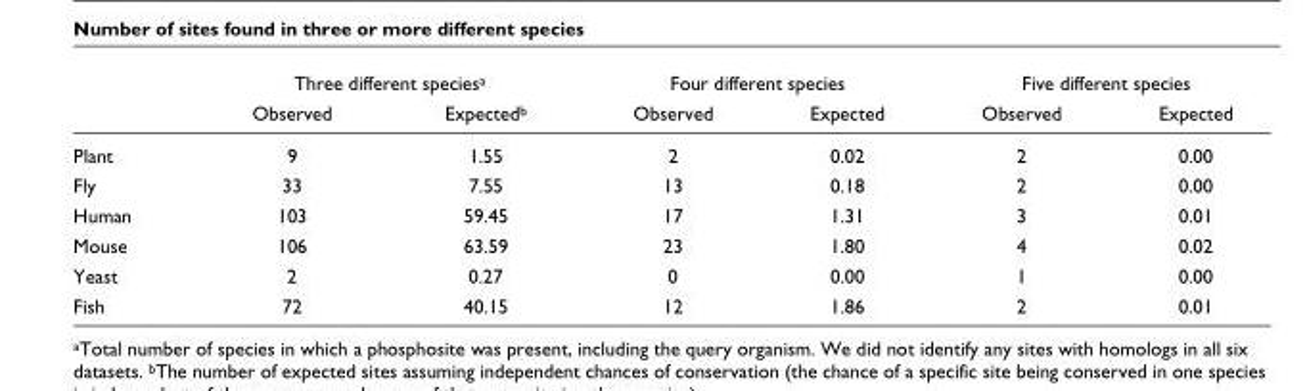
<table><thead><tr><td rowspan="2"></td><td colspan="2">Three different species<sup>a</sup></td><td colspan="2">Four different species</td><td colspan="2">Five different species</td></tr><tr><td>Observed</td><td>Expected<sup>b</sup></td><td>Observed</td><td>Expected</td><td>Observed</td><td>Expected</td></tr></thead><tbody><tr><td>Plant</td><td>9</td><td>1.55</td><td>2</td><td>0.02</td><td>2</td><td>0.00</td></tr><tr><td>Fly</td><td>33</td><td>7.55</td><td>13</td><td>0.18</td><td>2</td><td>0.00</td></tr><tr><td>Human</td><td>103</td><td>59.45</td><td>17</td><td>1.31</td><td>3</td><td>0.01</td></tr><tr><td>Mouse</td><td>106</td><td>63.59</td><td>23</td><td>1.80</td><td>4</td><td>0.02</td></tr><tr><td>Yeast</td><td>2</td><td>0.27</td><td>0</td><td>0.00</td><td>1</td><td>0.00</td></tr><tr><td>Fish</td><td>72</td><td>40.15</td><td>12</td><td>1.86</td><td>2</td><td>0.01</td></tr></tbody></table>